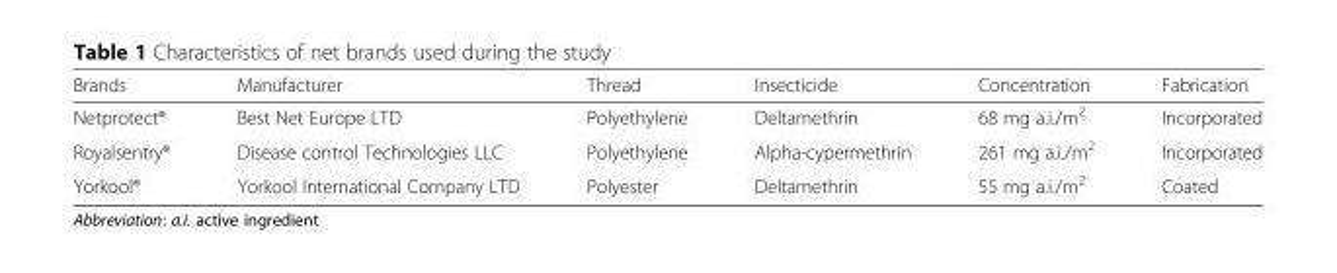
<table><thead><tr><td>Brands</td><td>Manufacturer</td><td>Thread</td><td>Insecticide</td><td>Concentration</td><td>Fabrication</td></tr></thead><tbody><tr><td>Netprotect®</td><td>Best Net Europe LTD</td><td>Polyethylene</td><td>Deltamethrin</td><td>68 mg a.i./m<sup>2</sup></td><td>Incorporated</td></tr><tr><td>Royalsentry®</td><td>Disease control Technologies LLC</td><td>Polyethylene</td><td>Alpha-cypermethrin</td><td>261 mg a.i./m<sup>2</sup></td><td>Incorporated</td></tr><tr><td>Yorkool®</td><td>Yorkool International Company LTD</td><td>Polyester</td><td>Deltamethrin</td><td>55 mg a.i./m<sup>2</sup></td><td>Coated</td></tr></tbody></table>